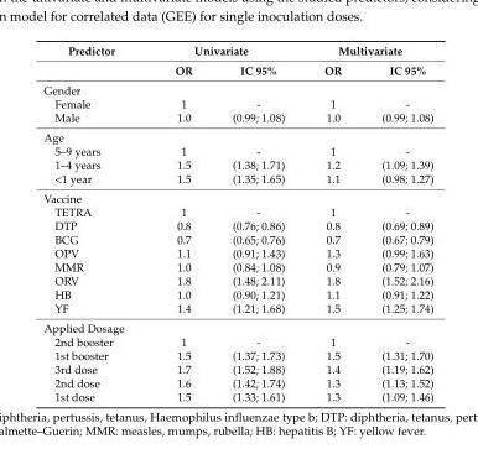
<table><thead><tr><td rowspan="2">Predictor</td><td colspan="2">Univariate</td><td colspan="2">Multivariate</td></tr><tr><td>OR</td><td>IC 95%</td><td>OR</td><td>IC 95%</td></tr></thead><tbody><tr><td colspan="5">Gender</td></tr><tr><td>Female</td><td>1</td><td>-</td><td>1</td><td>-</td></tr><tr><td>Male</td><td>1.0</td><td>(0.99; 1.08)</td><td>1.0</td><td>(0.99; 1.08)</td></tr><tr><td colspan="5">Age</td></tr><tr><td>5–9 years</td><td>1</td><td>-</td><td>1</td><td>-</td></tr><tr><td>1–4 years</td><td>1.5</td><td>(1.38; 1.71)</td><td>1.2</td><td>(1.09; 1.39)</td></tr><tr><td>&lt;1 year</td><td>1.5</td><td>(1.35; 1.65)</td><td>1.1</td><td>(0.98; 1.27)</td></tr><tr><td colspan="5">Vaccine</td></tr><tr><td>TETRA</td><td>1</td><td>-</td><td>1</td><td>-</td></tr><tr><td>DTP</td><td>0.8</td><td>(0.76; 0.86)</td><td>0.8</td><td>(0.69; 0.89)</td></tr><tr><td>BCG</td><td>0.7</td><td>(0.65; 0.76)</td><td>0.7</td><td>(0.67; 0.79)</td></tr><tr><td>OPV</td><td>1.1</td><td>(0.91; 1.43)</td><td>1.3</td><td>(0.99; 1.63)</td></tr><tr><td>MMR</td><td>1.0</td><td>(0.84; 1.08)</td><td>0.9</td><td>(0.79; 1.07)</td></tr><tr><td>ORV</td><td>1.8</td><td>(1.48; 2.11)</td><td>1.8</td><td>(1.52; 2.16)</td></tr><tr><td>HB</td><td>1.0</td><td>(0.90; 1.21)</td><td>1.1</td><td>(0.91; 1.22)</td></tr><tr><td>YF</td><td>1.4</td><td>(1.21; 1.68)</td><td>1.5</td><td>(1.25; 1.74)</td></tr><tr><td colspan="5">Applied Dosage</td></tr><tr><td>2nd booster</td><td>1</td><td>-</td><td>1</td><td>-</td></tr><tr><td>1st booster</td><td>1.5</td><td>(1.37; 1.73)</td><td>1.5</td><td>(1.31; 1.70)</td></tr><tr><td>3rd dose</td><td>1.7</td><td>(1.52; 1.88)</td><td>1.4</td><td>(1.19; 1.62)</td></tr><tr><td>2nd dose</td><td>1.6</td><td>(1.42; 1.74)</td><td>1.3</td><td>(1.13; 1.52)</td></tr><tr><td>1st dose</td><td>1.5</td><td>(1.33; 1.61)</td><td>1.3</td><td>(1.09; 1.46)</td></tr></tbody></table>